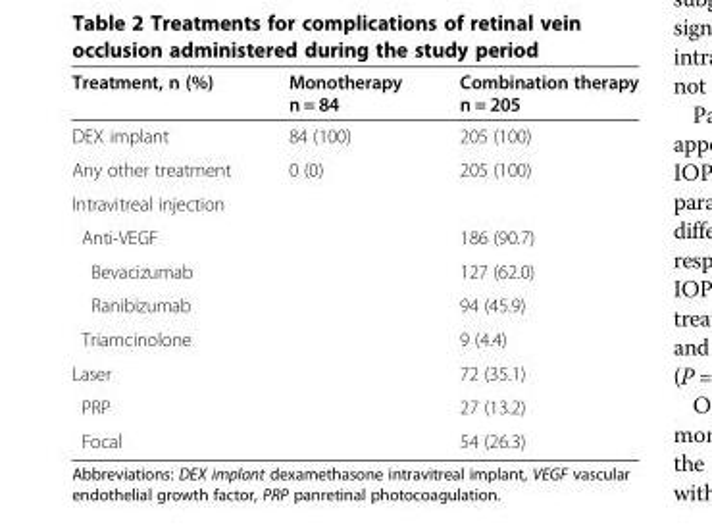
<table><thead><tr><td>Treatment, n (%)</td><td>Monotherapy n = 84</td><td>Combination therapy n = 205</td></tr></thead><tbody><tr><td>DEX implant</td><td>84 (100)</td><td>205 (100)</td></tr><tr><td>Any other treatment</td><td>0 (0)</td><td>205 (100)</td></tr><tr><td colspan="3">Intravitreal injection</td></tr><tr><td>Anti-VEGF</td><td></td><td>186 (90.7)</td></tr><tr><td>Bevacizumab</td><td></td><td>127 (62.0)</td></tr><tr><td>Ranibizumab</td><td></td><td>94 (45.9)</td></tr><tr><td>Triamcinolone</td><td></td><td>9 (4.4)</td></tr><tr><td>Laser</td><td></td><td>72 (35.1)</td></tr><tr><td>PRP</td><td></td><td>27 (13.2)</td></tr><tr><td>Focal</td><td></td><td>54 (26.3)</td></tr></tbody></table>